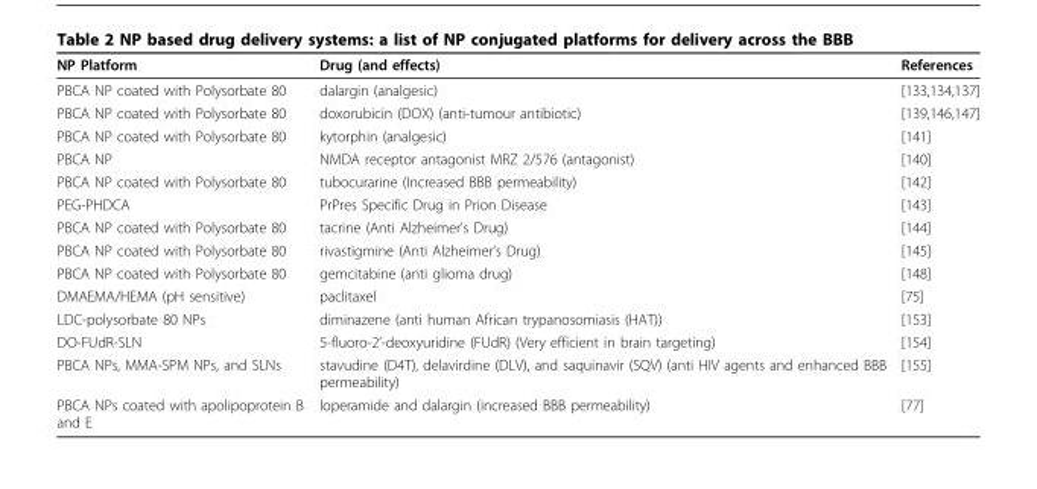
<table><thead><tr><td>NP Platform</td><td>Drug (and effects)</td><td>References</td></tr></thead><tbody><tr><td>PBCA NP coated with Polysorbate 80</td><td>dalargin (analgesic)</td><td>[133,134,137]</td></tr><tr><td>PBCA NP coated with Polysorbate 80</td><td>doxorubicin (DOX) (anti-tumour antibiotic)</td><td>[139,146,147]</td></tr><tr><td>PBCA NP coated with Polysorbate 80</td><td>kytorphin (analgesic)</td><td>[141]</td></tr><tr><td>PBCA NP</td><td>NMDA receptor antagonist MRZ 2/576 (antagonist)</td><td>[140]</td></tr><tr><td>PBCA NP coated with Polysorbate 80</td><td>tubocurarine (Increased BBB permeability)</td><td>[142]</td></tr><tr><td>PEG-PHDCA</td><td>PrPres Specific Drug in Prion Disease</td><td>[143]</td></tr><tr><td>PBCA NP coated with Polysorbate 80</td><td>tacrine (Anti Alzheimer’s Drug)</td><td>[144]</td></tr><tr><td>PBCA NP coated with Polysorbate 80</td><td>rivastigmine (Anti Alzheimer’s Drug)</td><td>[145]</td></tr><tr><td>PBCA NP coated with Polysorbate 80</td><td>gemcitabine (anti glioma drug)</td><td>[148]</td></tr><tr><td>DMAEMA/HEMA (pH sensitive)</td><td>paclitaxel</td><td>[75]</td></tr><tr><td>LDC-polysorbate 80 NPs</td><td>diminazene (anti human African trypanosomiasis (HAT))</td><td>[153]</td></tr><tr><td>DO-FUdR-SLN</td><td>5-fluoro-2’-deoxyuridine (FUdR) (Very efficient in brain targeting)</td><td>[154]</td></tr><tr><td>PBCA NPs, MMA-SPM NPs, and SLNs</td><td>stavudine (D4T), delavirdine (DLV), and saquinavir (SQV) (anti HIV agents and enhanced BBB permeability)</td><td>[155]</td></tr><tr><td>PBCA NPs coated with apolipoprotein B and E</td><td>loperamide and dalargin (increased BBB permeability)</td><td>[77]</td></tr></tbody></table>